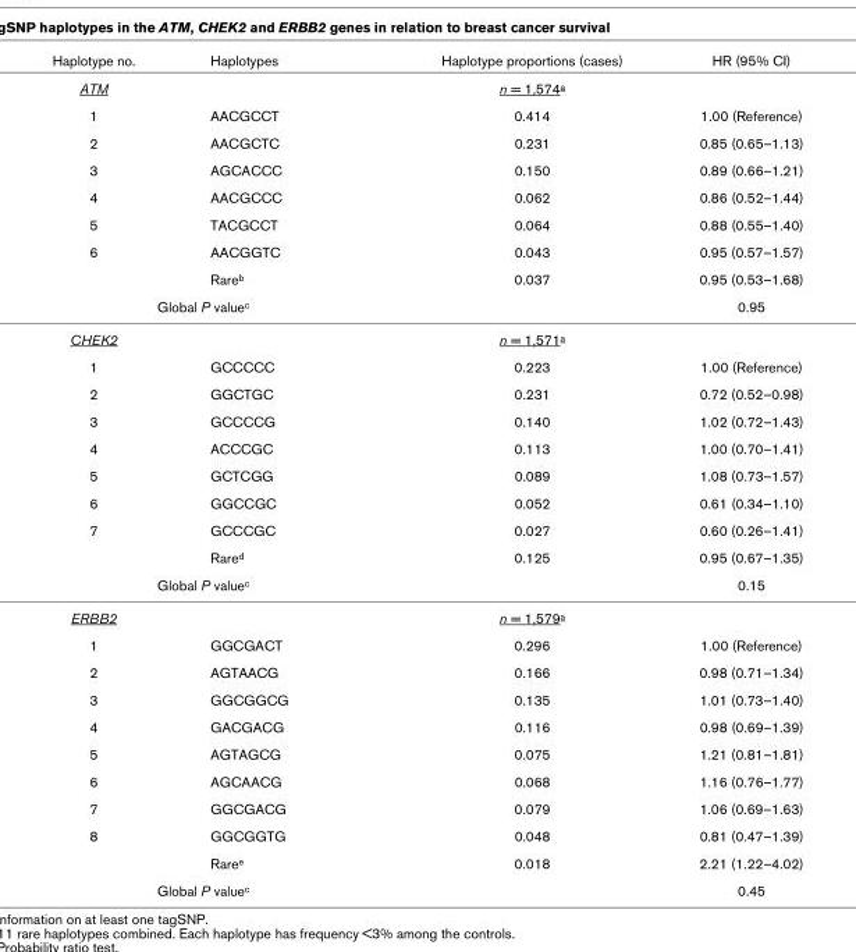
<table><thead><tr><td>Haplotype no.</td><td>Haplotypes</td><td>Haplotype proportions (cases)</td><td>HR (95% CI)</td></tr></thead><tbody><tr><td>ATM</td><td></td><td>n = 1,574a</td><td></td></tr><tr><td>1</td><td>AACGCCT</td><td>0.414</td><td>1.00 (Reference)</td></tr><tr><td>2</td><td>AACGCTC</td><td>0.231</td><td>0.85 (0.65–1.13)</td></tr><tr><td>3</td><td>AGCACCC</td><td>0.150</td><td>0.89 (0.66–1.21)</td></tr><tr><td>4</td><td>AACGCCC</td><td>0.062</td><td>0.86 (0.52–1.44)</td></tr><tr><td>5</td><td>TACGCCT</td><td>0.064</td><td>0.88 (0.55–1.40)</td></tr><tr><td rowspan="2">6</td><td>AACGGTC</td><td>0.043</td><td>0.95 (0.57–1.57)</td></tr><tr><td>Rareb</td><td>0.037</td><td>0.95 (0.53–1.68)</td></tr><tr><td colspan="2">Global P valuec</td><td></td><td>0.95</td></tr><tr><td>CHEK2</td><td></td><td>n = 1,571a</td><td></td></tr><tr><td>1</td><td>GCCCCC</td><td>0.223</td><td>1.00 (Reference)</td></tr><tr><td>2</td><td>GGCTGC</td><td>0.231</td><td>0.72 (0.52–0.98)</td></tr><tr><td>3</td><td>GCCCCG</td><td>0.140</td><td>1.02 (0.72–1.43)</td></tr><tr><td>4</td><td>ACCCGC</td><td>0.113</td><td>1.00 (0.70–1.41)</td></tr><tr><td>5</td><td>GCTCGG</td><td>0.089</td><td>1.08 (0.73–1.57)</td></tr><tr><td>6</td><td>GGCCGC</td><td>0.052</td><td>0.61 (0.34–1.10)</td></tr><tr><td rowspan="2">7</td><td>GCCCGC</td><td>0.027</td><td>0.60 (0.26–1.41)</td></tr><tr><td>Rared</td><td>0.125</td><td>0.95 (0.67–1.35)</td></tr><tr><td colspan="2">Global P valuec</td><td></td><td>0.15</td></tr><tr><td>ERBB2</td><td></td><td>n = 1,579a</td><td></td></tr><tr><td>1</td><td>GGCGACT</td><td>0.296</td><td>1.00 (Reference)</td></tr><tr><td>2</td><td>AGTAACG</td><td>0.166</td><td>0.98 (0.71–1.34)</td></tr><tr><td>3</td><td>GGCGGCG</td><td>0.135</td><td>1.01 (0.73–1.40)</td></tr><tr><td>4</td><td>GACGACG</td><td>0.116</td><td>0.98 (0.69–1.39)</td></tr><tr><td>5</td><td>AGTAGCG</td><td>0.075</td><td>1.21 (0.81–1.81)</td></tr><tr><td>6</td><td>AGCAACG</td><td>0.068</td><td>1.16 (0.76–1.77)</td></tr><tr><td>7</td><td>GGCGACG</td><td>0.079</td><td>1.06 (0.69–1.63)</td></tr><tr><td rowspan="2">8</td><td>GGCGGTG</td><td>0.048</td><td>0.81 (0.47–1.39)</td></tr><tr><td>Raree</td><td>0.018</td><td>2.21 (1.22–4.02)</td></tr><tr><td colspan="2">Global P valuec</td><td></td><td>0.45</td></tr></tbody></table>